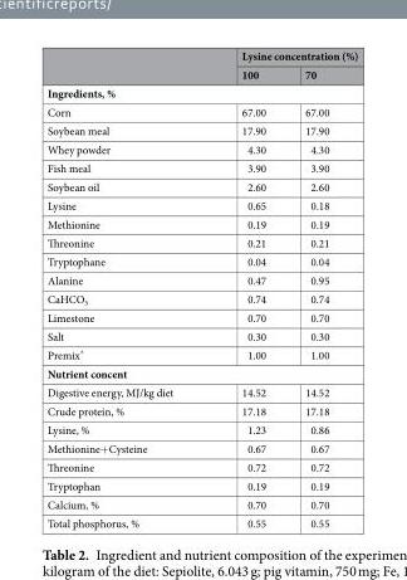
<table><thead><tr><td rowspan="2"></td><td colspan="2">Lysine concentration (%)</td></tr><tr><td>100</td><td>70</td></tr></thead><tbody><tr><td colspan="3">Ingredients, %</td></tr><tr><td>Corn</td><td>67.00</td><td>67.00</td></tr><tr><td>Soybean meal</td><td>17.90</td><td>17.90</td></tr><tr><td>Whey powder</td><td>4.30</td><td>4.30</td></tr><tr><td>Fish meal</td><td>3.90</td><td>3.90</td></tr><tr><td>Soybean oil</td><td>2.60</td><td>2.60</td></tr><tr><td>Lysine</td><td>0.65</td><td>0.18</td></tr><tr><td>Methionine</td><td>0.19</td><td>0.19</td></tr><tr><td>Threonine</td><td>0.21</td><td>0.21</td></tr><tr><td>Tryptophane</td><td>0.04</td><td>0.04</td></tr><tr><td>Alanine</td><td>0.47</td><td>0.95</td></tr><tr><td>CaHCO<sub>3</sub></td><td>0.74</td><td>0.74</td></tr><tr><td>Limestone</td><td>0.70</td><td>0.70</td></tr><tr><td>Salt</td><td>0.30</td><td>0.30</td></tr><tr><td>Premix*</td><td>1.00</td><td>1.00</td></tr><tr><td colspan="3">Nutrient concent</td></tr><tr><td>Digestive energy, MJ/kg diet</td><td>14.52</td><td>14.52</td></tr><tr><td>Crude protein, %</td><td>17.18</td><td>17.18</td></tr><tr><td>Lysine, %</td><td>1.23</td><td>0.86</td></tr><tr><td>Methionine+Cysteine</td><td>0.67</td><td>0.67</td></tr><tr><td>Threonine</td><td>0.72</td><td>0.72</td></tr><tr><td>Tryptophan</td><td>0.19</td><td>0.19</td></tr><tr><td>Calcium, %</td><td>0.70</td><td>0.70</td></tr><tr><td>Total phosphorus, %</td><td>0.55</td><td>0.55</td></tr></tbody></table>